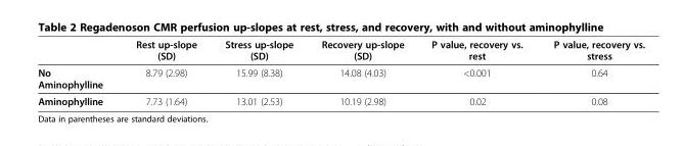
<table><thead><tr><td></td><td>Rest up-slope (SD)</td><td>Stress up-slope (SD)</td><td>Recovery up-slope (SD)</td><td>P value, recovery vs. rest</td><td>P value, recovery vs. stress</td></tr></thead><tbody><tr><td>No Aminophylline</td><td>8.79 (2.98)</td><td>15.99 (8.38)</td><td>14.08 (4.03)</td><td>&lt;0.001</td><td>0.64</td></tr><tr><td>Aminophylline</td><td>7.73 (1.64)</td><td>13.01 (2.53)</td><td>10.19 (2.98)</td><td>0.02</td><td>0.08</td></tr></tbody></table>